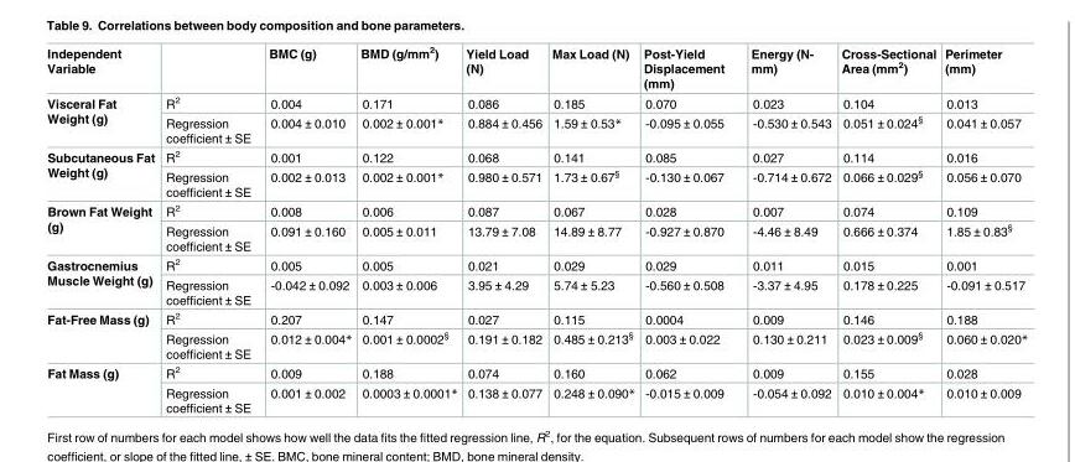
<table><thead><tr><td>Independent Variable</td><td></td><td>BMC (g)</td><td>BMD (g/mm<sup>2</sup>)</td><td>Yield Load (N)</td><td>Max Load (N)</td><td>Post-Yield Displacement (mm)</td><td>Energy (N- mm)</td><td>Cross-Sectional Area (mm<sup>2</sup>)</td><td>Perimeter (mm)</td></tr></thead><tbody><tr><td rowspan="2">Visceral Fat Weight (g)</td><td>R<sup>2</sup></td><td>0.004</td><td>0.171</td><td>0.086</td><td>0.185</td><td>0.070</td><td>0.023</td><td>0.104</td><td>0.013</td></tr><tr><td>Regression coefficient ± SE</td><td>0.004 ± 0.010</td><td>0.002 ± 0.001*</td><td>0.884 ± 0.456</td><td>1.59 ± 0.53*</td><td>-0.095 ± 0.055</td><td>-0.530 ± 0.543</td><td>0.051 ± 0.024<sup>§</sup></td><td>0.041 ± 0.057</td></tr><tr><td rowspan="2">Subcutaneous Fat Weight (g)</td><td>R<sup>2</sup></td><td>0.001</td><td>0.122</td><td>0.068</td><td>0.141</td><td>0.085</td><td>0.027</td><td>0.114</td><td>0.016</td></tr><tr><td>Regression coefficient ± SE</td><td>0.002 ± 0.013</td><td>0.002 ± 0.001*</td><td>0.980 ± 0.571</td><td>1.73 ± 0.67<sup>§</sup></td><td>-0.130 ± 0.067</td><td>-0.714 ± 0.672</td><td>0.066 ± 0.029<sup>§</sup></td><td>0.056 ± 0.070</td></tr><tr><td rowspan="2">Brown Fat Weight (g)</td><td>R<sup>2</sup></td><td>0.008</td><td>0.006</td><td>0.087</td><td>0.067</td><td>0.028</td><td>0.007</td><td>0.074</td><td>0.109</td></tr><tr><td>Regression coefficient ± SE</td><td>0.091 ± 0.160</td><td>0.005 ± 0.011</td><td>13.79 ± 7.08</td><td>14.89 ± 8.77</td><td>-0.927 ± 0.870</td><td>-4.46 ± 8.49</td><td>0.666 ± 0.374</td><td>1.85 ± 0.83<sup>§</sup></td></tr><tr><td rowspan="2">Gastrocnemius Muscle Weight (g)</td><td>R<sup>2</sup></td><td>0.005</td><td>0.005</td><td>0.021</td><td>0.029</td><td>0.029</td><td>0.011</td><td>0.015</td><td>0.001</td></tr><tr><td>Regression coefficient ± SE</td><td>-0.042 ± 0.092</td><td>0.003 ± 0.006</td><td>3.95 ± 4.29</td><td>5.74 ± 5.23</td><td>-0.560 ± 0.508</td><td>-3.37 ± 4.95</td><td>0.178 ± 0.225</td><td>-0.091 ± 0.517</td></tr><tr><td rowspan="2">Fat-Free Mass (g)</td><td>R<sup>2</sup></td><td>0.207</td><td>0.147</td><td>0.027</td><td>0.115</td><td>0.0004</td><td>0.009</td><td>0.146</td><td>0.188</td></tr><tr><td>Regression coefficient ± SE</td><td>0.012 ± 0.004*</td><td>0.001 ± 0.0002<sup>§</sup></td><td>0.191 ± 0.182</td><td>0.485 ± 0.213<sup>§</sup></td><td>0.003 ± 0.022</td><td>0.130 ± 0.211</td><td>0.023 ± 0.009<sup>§</sup></td><td>0.060 ± 0.020*</td></tr><tr><td rowspan="2">Fat Mass (g)</td><td>R<sup>2</sup></td><td>0.009</td><td>0.188</td><td>0.074</td><td>0.160</td><td>0.062</td><td>0.009</td><td>0.155</td><td>0.028</td></tr><tr><td>Regression coefficient ± SE</td><td>0.001 ± 0.002</td><td>0.0003 ± 0.0001*</td><td>0.138 ± 0.077</td><td>0.248 ± 0.090*</td><td>-0.015 ± 0.009</td><td>-0.054 ± 0.092</td><td>0.010 ± 0.004*</td><td>0.010 ± 0.009</td></tr></tbody></table>